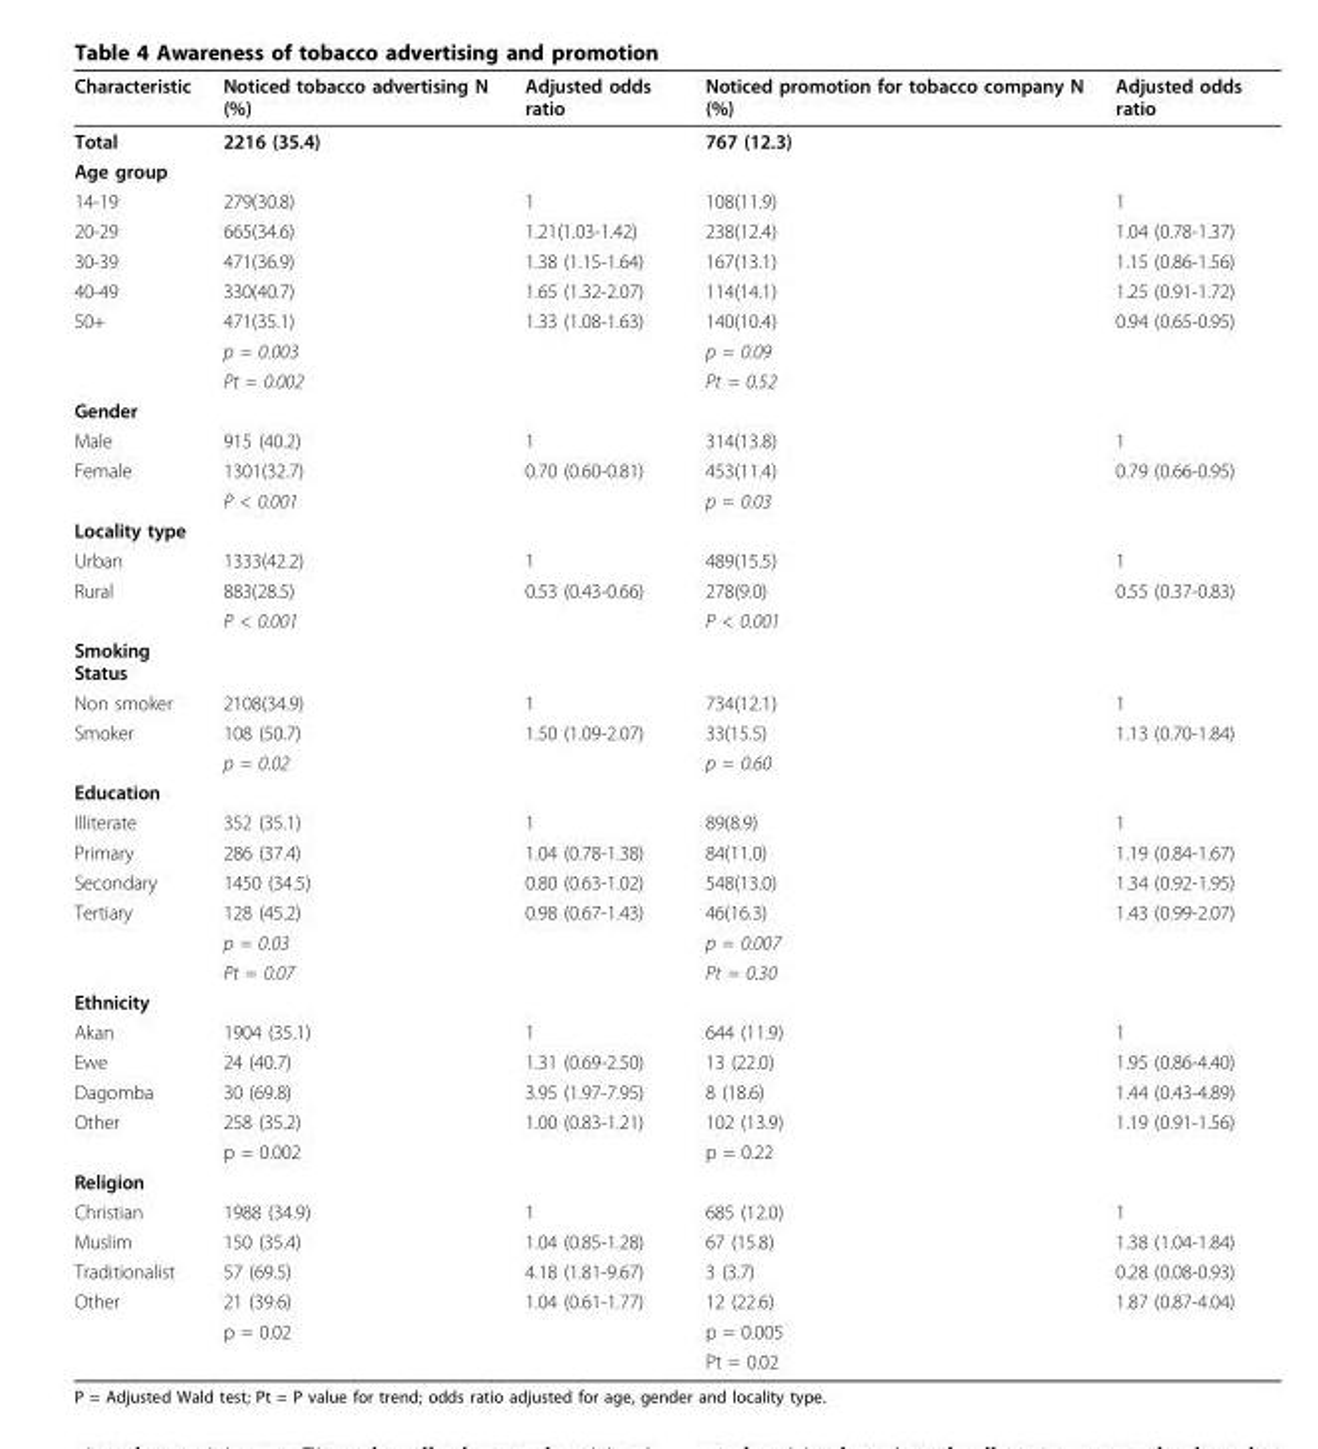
<table><thead><tr><td>Characteristic</td><td>Noticed tobacco advertising N (%)</td><td>Adjusted odds ratio</td><td>Noticed promotion for tobacco company N (%)</td><td>Adjusted odds ratio</td></tr></thead><tbody><tr><td>Total</td><td>2216 (35.4)</td><td></td><td>767 (12.3)</td><td></td></tr><tr><td colspan="5">Age group</td></tr><tr><td>14-19</td><td>279(30.8)</td><td>1</td><td>108(11.9)</td><td>1</td></tr><tr><td>20-29</td><td>665(34.6)</td><td>1.21(1.03-1.42)</td><td>238(12.4)</td><td>1.04 (0.78-1.37)</td></tr><tr><td>30-39</td><td>471(36.9)</td><td>1.38 (1.15-1.64)</td><td>167(13.1)</td><td>1.15 (0.86-1.56)</td></tr><tr><td>40-49</td><td>330(40.7)</td><td>1.65 (1.32-2.07)</td><td>114(14.1)</td><td>1.25 (0.91-1.72)</td></tr><tr><td rowspan="3">50+</td><td>471(35.1)</td><td>1.33 (1.08-1.63)</td><td>140(10.4)</td><td>0.94 (0.65-0.95)</td></tr><tr><td>p = 0.003</td><td></td><td>p = 0.09</td><td></td></tr><tr><td>Pt = 0.002</td><td></td><td>Pt = 0.52</td><td></td></tr><tr><td colspan="5">Gender</td></tr><tr><td>Male</td><td>915 (40.2)</td><td>1</td><td>314(13.8)</td><td>1</td></tr><tr><td rowspan="2">Female</td><td>1301(32.7)</td><td>0.70 (0.60-0.81)</td><td>453(11.4)</td><td>0.79 (0.66-0.95)</td></tr><tr><td>P &lt; 0.001</td><td></td><td>p = 0.03</td><td></td></tr><tr><td colspan="5">Locality type</td></tr><tr><td>Urban</td><td>1333(42.2)</td><td>1</td><td>489(15.5)</td><td>1</td></tr><tr><td rowspan="2">Rural</td><td>883(28.5)</td><td>0.53 (0.43-0.66)</td><td>278(9.0)</td><td>0.55 (0.37-0.83)</td></tr><tr><td>P &lt; 0.001</td><td></td><td>P &lt; 0.001</td><td></td></tr><tr><td colspan="5">Smoking Status</td></tr><tr><td>Non smoker</td><td>2108(34.9)</td><td>1</td><td>734(12.1)</td><td>1</td></tr><tr><td rowspan="2">Smoker</td><td>108 (50.7)</td><td>1.50 (1.09-2.07)</td><td>33(15.5)</td><td>1.13 (0.70-1.84)</td></tr><tr><td>p = 0.02</td><td></td><td>p = 0.60</td><td></td></tr><tr><td colspan="5">Education</td></tr><tr><td>Illiterate</td><td>352 (35.1)</td><td>1</td><td>89(8.9)</td><td>1</td></tr><tr><td>Primary</td><td>286 (37.4)</td><td>1.04 (0.78-1.38)</td><td>84(11.0)</td><td>1.19 (0.84-1.67)</td></tr><tr><td>Secondary</td><td>1450 (34.5)</td><td>0.80 (0.63-1.02)</td><td>548(13.0)</td><td>1.34 (0.92-1.95)</td></tr><tr><td rowspan="3">Tertiary</td><td>128 (45.2)</td><td>0.98 (0.67-1.43)</td><td>46(16.3)</td><td>1.43 (0.99-2.07)</td></tr><tr><td>p = 0.03</td><td></td><td>p = 0.007</td><td></td></tr><tr><td>Pt = 0.07</td><td></td><td>Pt = 0.30</td><td></td></tr><tr><td colspan="5">Ethnicity</td></tr><tr><td>Akan</td><td>1904 (35.1)</td><td>1</td><td>644 (11.9)</td><td>1</td></tr><tr><td>Ewe</td><td>24 (40.7)</td><td>1.31 (0.69-2.50)</td><td>13 (22.0)</td><td>1.95 (0.86-4.40)</td></tr><tr><td>Dagomba</td><td>30 (69.8)</td><td>3.95 (1.97-7.95)</td><td>8 (18.6)</td><td>1.44 (0.43-4.89)</td></tr><tr><td rowspan="2">Other</td><td>258 (35.2)</td><td>1.00 (0.83-1.21)</td><td>102 (13.9)</td><td>1.19 (0.91-1.56)</td></tr><tr><td>p = 0.002</td><td></td><td>p = 0.22</td><td></td></tr><tr><td colspan="5">Religion</td></tr><tr><td>Christian</td><td>1988 (34.9)</td><td>1</td><td>685 (12.0)</td><td>1</td></tr><tr><td>Muslim</td><td>150 (35.4)</td><td>1.04 (0.85-1.28)</td><td>67 (15.8)</td><td>1.38 (1.04-1.84)</td></tr><tr><td>Traditionalist</td><td>57 (69.5)</td><td>4.18 (1.81-9.67)</td><td>3 (3.7)</td><td>0.28 (0.08-0.93)</td></tr><tr><td rowspan="3">Other</td><td>21 (39.6)</td><td>1.04 (0.61-1.77)</td><td>12 (22.6)</td><td>1.87 (0.87-4.04)</td></tr><tr><td>p = 0.02</td><td></td><td>p = 0.005</td><td></td></tr><tr><td></td><td></td><td>Pt = 0.02</td><td></td></tr></tbody></table>